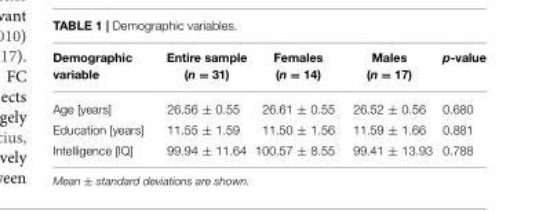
<table><thead><tr><td>Demographic variable</td><td>Entire sample (n = 31)</td><td>Females (n = 14)</td><td>Males (n = 17)</td><td>p-value</td></tr></thead><tbody><tr><td>Age [years]</td><td>26.56 ± 0.55</td><td>26.61 ± 0.55</td><td>26.52 ± 0.56</td><td>0.680</td></tr><tr><td>Education [years]</td><td>11.55 ± 1.59</td><td>11.50 ± 1.56</td><td>11.59 ± 1.66</td><td>0.881</td></tr><tr><td>Intelligence [IQ]</td><td>99.94 ± 11.64</td><td>100.57 ± 8.55</td><td>99.41 ± 13.93</td><td>0.788</td></tr></tbody></table>